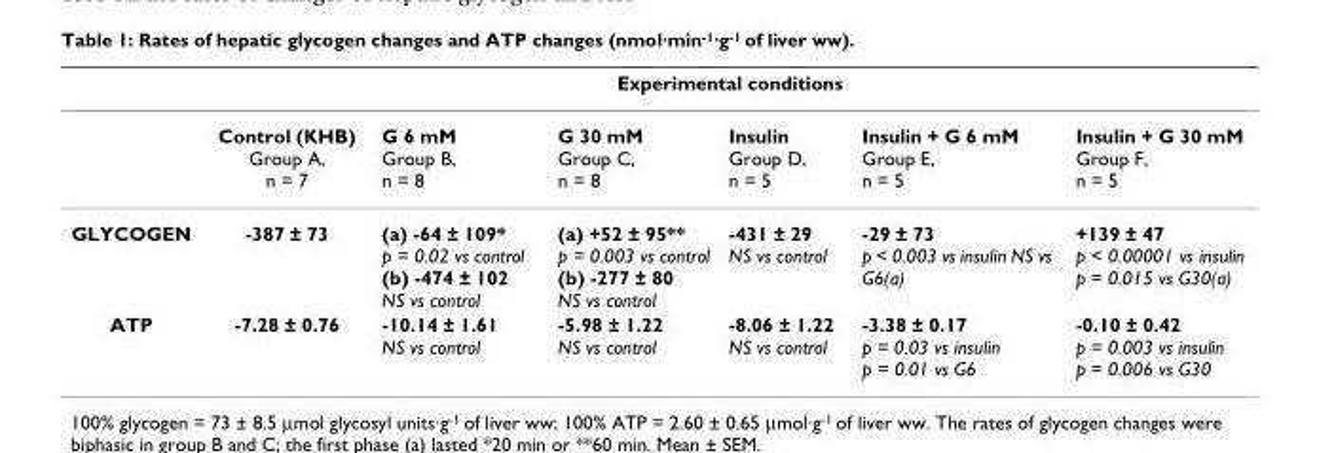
<table><thead><tr><td rowspan="2"></td><td colspan="6">Experimental conditions</td></tr><tr><td>Control (KHB) Group A, n = 7</td><td>G 6 mM Group B, n = 8</td><td>G 30 mM Group C, n = 8</td><td>Insulin Group D, n = 5</td><td>Insulin + G 6 mM Group E, n = 5</td><td>Insulin + G 30 mM Group F, n = 5</td></tr></thead><tbody><tr><td>GLYCOGEN</td><td>-387 ± 73</td><td>(a) -64 ± 109* p = 0.02 vs control (b) -474 ± 102 NS vs control</td><td>(a) +52 ± 95** p = 0.003 vs control (b) -277 ± 80 NS vs control</td><td>-431 ± 29 NS vs control</td><td>-29 ± 73 p &lt; 0.003 vs insulin NS vs G6(a)</td><td>+139 ± 47 p &lt; 0.00001 vs insulin p = 0.015 vs G30(a)</td></tr><tr><td>ATP</td><td>-7.28 ± 0.76</td><td>-10.14 ± 1.61 NS vs control</td><td>-5.98 ± 1.22 NS vs control</td><td>-8.06 ± 1.22 NS vs control</td><td>-3.38 ± 0.17 p = 0.03 vs insulin p = 0.01 vs G6</td><td>-0.10 ± 0.42 p = 0.003 vs insulin p = 0.006 vs G30</td></tr></tbody></table>